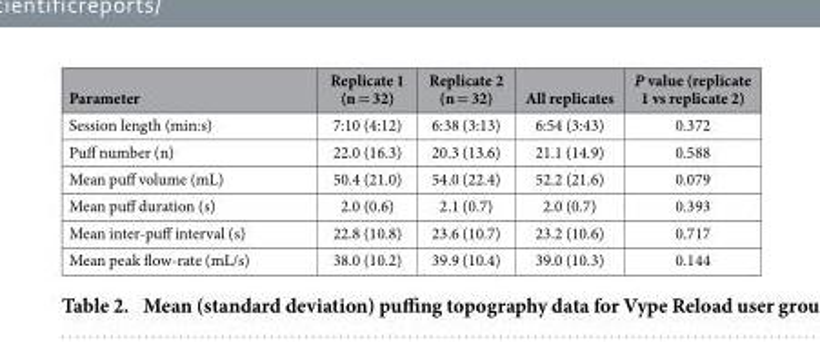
<table><thead><tr><td>Parameter</td><td>Replicate 1 (n = 32)</td><td>Replicate 2 (n = 32)</td><td>All replicates</td><td>P value (replicate 1 vs replicate 2)</td></tr></thead><tbody><tr><td>Session length (min:s)</td><td>7:10 (4:12)</td><td>6:38 (3:13)</td><td>6:54 (3:43)</td><td>0.372</td></tr><tr><td>Puff number (n)</td><td>22.0 (16.3)</td><td>20.3 (13.6)</td><td>21.1 (14.9)</td><td>0.588</td></tr><tr><td>Mean puff volume (mL)</td><td>50.4 (21.0)</td><td>54.0 (22.4)</td><td>52.2 (21.6)</td><td>0.079</td></tr><tr><td>Mean puff duration (s)</td><td>2.0 (0.6)</td><td>2.1 (0.7)</td><td>2.0 (0.7)</td><td>0.393</td></tr><tr><td>Mean inter-puff interval (s)</td><td>22.8 (10.8)</td><td>23.6 (10.7)</td><td>23.2 (10.6)</td><td>0.717</td></tr><tr><td>Mean peak flow-rate (mL/s)</td><td>38.0 (10.2)</td><td>39.9 (10.4)</td><td>39.0 (10.3)</td><td>0.144</td></tr></tbody></table>